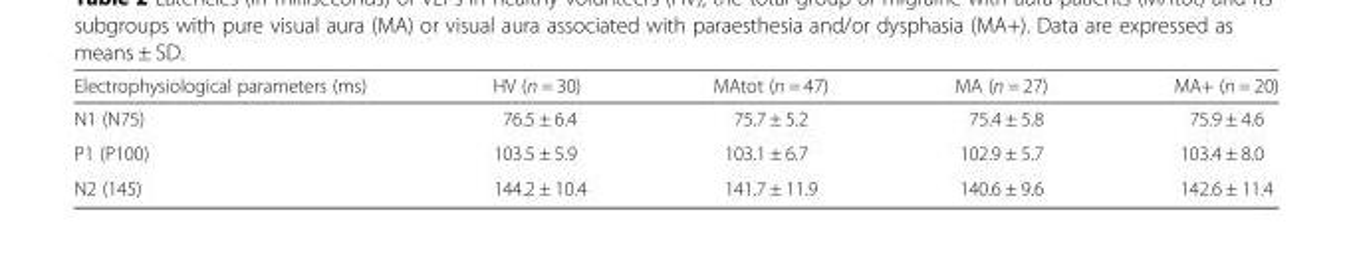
<table><thead><tr><td>Electrophysiological parameters (ms)</td><td>HV (n = 30)</td><td>MAtot (n = 47)</td><td>MA (n = 27)</td><td>MA+ (n = 20)</td></tr></thead><tbody><tr><td>N1 (N75)</td><td>76.5 ± 6.4</td><td>75.7 ± 5.2</td><td>75.4 ± 5.8</td><td>75.9 ± 4.6</td></tr><tr><td>P1 (P100)</td><td>103.5 ± 5.9</td><td>103.1 ± 6.7</td><td>102.9 ± 5.7</td><td>103.4 ± 8.0</td></tr><tr><td>N2 (145)</td><td>144.2 ± 10.4</td><td>141.7 ± 11.9</td><td>140.6 ± 9.6</td><td>142.6 ± 11.4</td></tr></tbody></table>